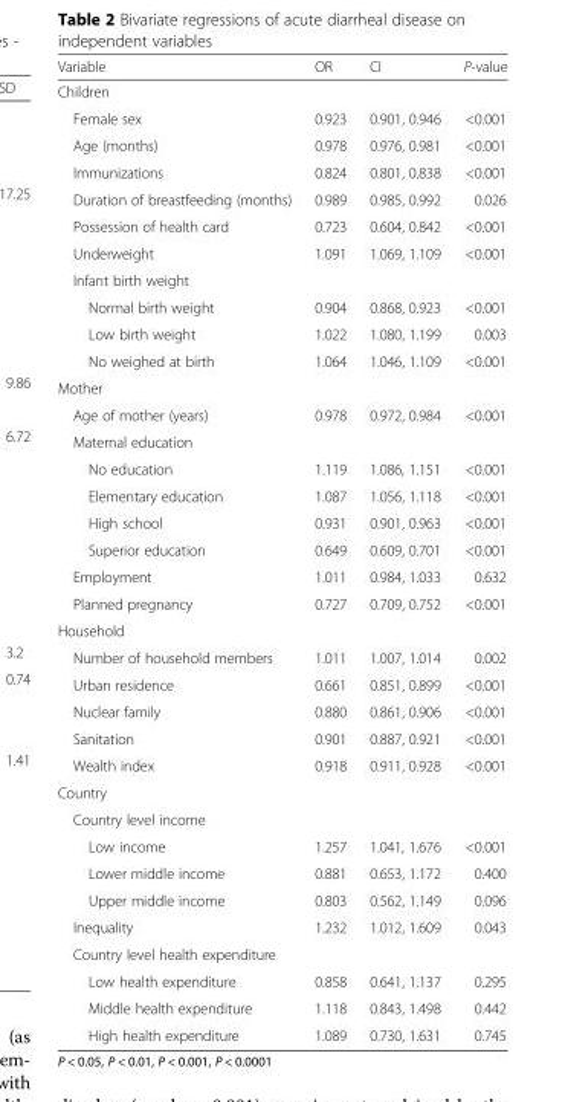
<table><thead><tr><td>Variable</td><td>OR</td><td>CI</td><td>P-value</td></tr></thead><tbody><tr><td colspan="4">Children</td></tr><tr><td>Female sex</td><td>0.923</td><td>0.901, 0.946</td><td>&lt;0.001</td></tr><tr><td>Age (months)</td><td>0.978</td><td>0.976, 0.981</td><td>&lt;0.001</td></tr><tr><td>Immunizations</td><td>0.824</td><td>0.801, 0.838</td><td>&lt;0.001</td></tr><tr><td>Duration of breastfeeding (months)</td><td>0.989</td><td>0.985, 0.992</td><td>0.026</td></tr><tr><td>Possession of health card</td><td>0.723</td><td>0.604, 0.842</td><td>&lt;0.001</td></tr><tr><td>Underweight</td><td>1.091</td><td>1.069, 1.109</td><td>&lt;0.001</td></tr><tr><td colspan="4">Infant birth weight</td></tr><tr><td>Normal birth weight</td><td>0.904</td><td>0.868, 0.923</td><td>&lt;0.001</td></tr><tr><td>Low birth weight</td><td>1.022</td><td>1.080, 1.199</td><td>0.003</td></tr><tr><td>No weighed at birth</td><td>1.064</td><td>1.046, 1.109</td><td>&lt;0.001</td></tr><tr><td colspan="4">Mother</td></tr><tr><td>Age of mother (years)</td><td>0.978</td><td>0.972, 0.984</td><td>&lt;0.001</td></tr><tr><td colspan="4">Maternal education</td></tr><tr><td>No education</td><td>1.119</td><td>1.086, 1.151</td><td>&lt;0.001</td></tr><tr><td>Elementary education</td><td>1.087</td><td>1.056, 1.118</td><td>&lt;0.001</td></tr><tr><td>High school</td><td>0.931</td><td>0.901, 0.963</td><td>&lt;0.001</td></tr><tr><td>Superior education</td><td>0.649</td><td>0.609, 0.701</td><td>&lt;0.001</td></tr><tr><td>Employment</td><td>1.011</td><td>0.984, 1.033</td><td>0.632</td></tr><tr><td>Planned pregnancy</td><td>0.727</td><td>0.709, 0.752</td><td>&lt;0.001</td></tr><tr><td colspan="4">Household</td></tr><tr><td>Number of household members</td><td>1.011</td><td>1.007, 1.014</td><td>0.002</td></tr><tr><td>Urban residence</td><td>0.661</td><td>0.851, 0.899</td><td>&lt;0.001</td></tr><tr><td>Nuclear family</td><td>0.880</td><td>0.861, 0.906</td><td>&lt;0.001</td></tr><tr><td>Sanitation</td><td>0.901</td><td>0.887, 0.921</td><td>&lt;0.001</td></tr><tr><td>Wealth index</td><td>0.918</td><td>0.911, 0.928</td><td>&lt;0.001</td></tr><tr><td colspan="4">Country</td></tr><tr><td colspan="4">Country level income</td></tr><tr><td>Low income</td><td>1.257</td><td>1.041, 1.676</td><td>&lt;0.001</td></tr><tr><td>Lower middle income</td><td>0.881</td><td>0.653, 1.172</td><td>0.400</td></tr><tr><td>Upper middle income</td><td>0.803</td><td>0.562, 1.149</td><td>0.096</td></tr><tr><td>Inequality</td><td>1.232</td><td>1.012, 1.609</td><td>0.043</td></tr><tr><td colspan="4">Country level health expenditure</td></tr><tr><td>Low health expenditure</td><td>0.858</td><td>0.641, 1.137</td><td>0.295</td></tr><tr><td>Middle health expenditure</td><td>1.118</td><td>0.843, 1.498</td><td>0.442</td></tr><tr><td>High health expenditure</td><td>1.089</td><td>0.730, 1.631</td><td>0.745</td></tr></tbody></table>